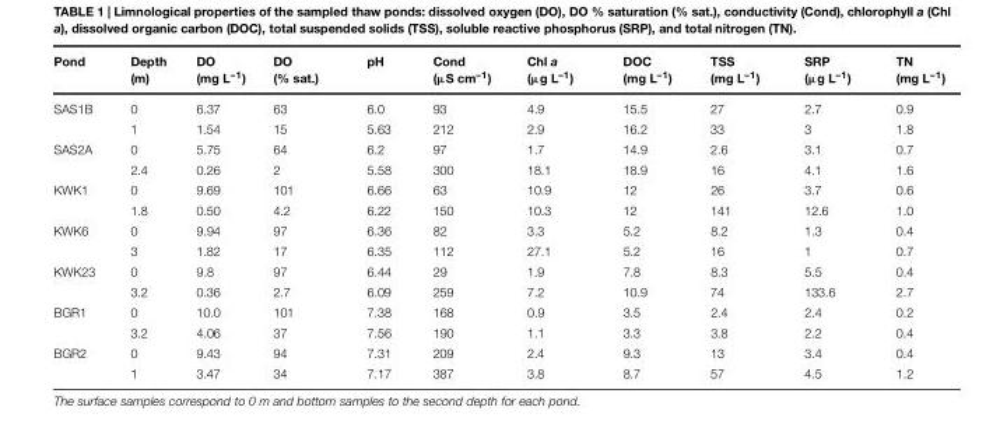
<table><thead><tr><td>Pond</td><td>Depth (m)</td><td>DO (mg L–1)</td><td>DO (% sat.)</td><td>pH</td><td>Cond (μS cm–1)</td><td>Chl a (μg L–1)</td><td>DOC (mg L–1)</td><td>TSS (mg L–1)</td><td>SRP (μg L–1)</td><td>TN (mg L–1)</td></tr></thead><tbody><tr><td rowspan="2">SAS1B</td><td>0</td><td>6.37</td><td>63</td><td>6.0</td><td>93</td><td>4.9</td><td>15.5</td><td>27</td><td>2.7</td><td>0.9</td></tr><tr><td>1</td><td>1.54</td><td>15</td><td>5.63</td><td>212</td><td>2.9</td><td>16.2</td><td>33</td><td>3</td><td>1.8</td></tr><tr><td rowspan="2">SAS2A</td><td>0</td><td>5.75</td><td>64</td><td>6.2</td><td>97</td><td>1.7</td><td>14.9</td><td>2.6</td><td>3.1</td><td>0.7</td></tr><tr><td>2.4</td><td>0.26</td><td>2</td><td>5.58</td><td>300</td><td>18.1</td><td>18.9</td><td>16</td><td>4.1</td><td>1.6</td></tr><tr><td rowspan="2">KWK1</td><td>0</td><td>9.69</td><td>101</td><td>6.66</td><td>63</td><td>10.9</td><td>12</td><td>26</td><td>3.7</td><td>0.6</td></tr><tr><td>1.8</td><td>0.50</td><td>4.2</td><td>6.22</td><td>150</td><td>10.3</td><td>12</td><td>141</td><td>12.6</td><td>1.0</td></tr><tr><td rowspan="2">KWK6</td><td>0</td><td>9.94</td><td>97</td><td>6.36</td><td>82</td><td>3.3</td><td>5.2</td><td>8.2</td><td>1.3</td><td>0.4</td></tr><tr><td>3</td><td>1.82</td><td>17</td><td>6.35</td><td>112</td><td>27.1</td><td>5.2</td><td>16</td><td>1</td><td>0.7</td></tr><tr><td rowspan="2">KWK23</td><td>0</td><td>9.8</td><td>97</td><td>6.44</td><td>29</td><td>1.9</td><td>7.8</td><td>8.3</td><td>5.5</td><td>0.4</td></tr><tr><td>3.2</td><td>0.36</td><td>2.7</td><td>6.09</td><td>259</td><td>7.2</td><td>10.9</td><td>74</td><td>133.6</td><td>2.7</td></tr><tr><td rowspan="2">BGR1</td><td>0</td><td>10.0</td><td>101</td><td>7.38</td><td>168</td><td>0.9</td><td>3.5</td><td>2.4</td><td>2.4</td><td>0.2</td></tr><tr><td>3.2</td><td>4.06</td><td>37</td><td>7.56</td><td>190</td><td>1.1</td><td>3.3</td><td>3.8</td><td>2.2</td><td>0.4</td></tr><tr><td rowspan="2">BGR2</td><td>0</td><td>9.43</td><td>94</td><td>7.31</td><td>209</td><td>2.4</td><td>9.3</td><td>13</td><td>3.4</td><td>0.4</td></tr><tr><td>1</td><td>3.47</td><td>34</td><td>7.17</td><td>387</td><td>3.8</td><td>8.7</td><td>57</td><td>4.5</td><td>1.2</td></tr></tbody></table>